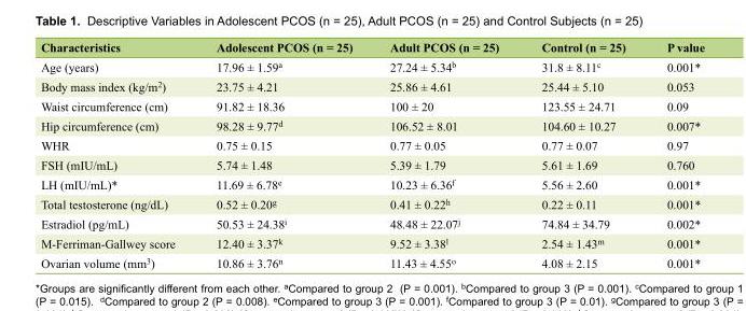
<table><thead><tr><td>Characteristics</td><td>Adolescent PCOS (n = 25)</td><td>Adult PCOS (n = 25)</td><td>Control (n = 25)</td><td>P value</td></tr></thead><tbody><tr><td>Age (years)</td><td>17.96 ± 1.59<sup>a</sup></td><td>27.24 ± 5.34<sup>b</sup></td><td>31.8 ± 8.11<sup>c</sup></td><td>0.001*</td></tr><tr><td>Body mass index (kg/m<sup>2</sup>)</td><td>23.75 ± 4.21</td><td>25.86 ± 4.61</td><td>25.44 ± 5.10</td><td>0.053</td></tr><tr><td>Waist circumference (cm)</td><td>91.82 ± 18.36</td><td>100 ± 20</td><td>123.55 ± 24.71</td><td>0.09</td></tr><tr><td>Hip circumference (cm)</td><td>98.28 ± 9.77<sup>d</sup></td><td>106.52 ± 8.01</td><td>104.60 ± 10.27</td><td>0.007*</td></tr><tr><td>WHR</td><td>0.75 ± 0.15</td><td>0.77 ± 0.05</td><td>0.77 ± 0.07</td><td>0.97</td></tr><tr><td>FSH (mIU/mL)</td><td>5.74 ± 1.48</td><td>5.39 ± 1.79</td><td>5.61 ± 1.69</td><td>0.760</td></tr><tr><td>LH (mIU/mL)*</td><td>11.69 ± 6.78<sup>e</sup></td><td>10.23 ± 6.36<sup>f</sup></td><td>5.56 ± 2.60</td><td>0.001*</td></tr><tr><td>Total testosterone (ng/dL)</td><td>0.52 ± 0.20<sup>g</sup></td><td>0.41 ± 0.22<sup>h</sup></td><td>0.22 ± 0.11</td><td>0.001*</td></tr><tr><td>Estradiol (pg/mL)</td><td>50.53 ± 24.38<sup>i</sup></td><td>48.48 ± 22.07<sup>j</sup></td><td>74.84 ± 34.79</td><td>0.002*</td></tr><tr><td>M-Ferriman-Gallwey score</td><td>12.40 ± 3.37<sup>k</sup></td><td>9.52 ± 3.38<sup>l</sup></td><td>2.54 ± 1.43<sup>m</sup></td><td>0.001*</td></tr><tr><td>Ovarian volume (mm<sup>3</sup>)</td><td>10.86 ± 3.76<sup>n</sup></td><td>11.43 ± 4.55<sup>o</sup></td><td>4.08 ± 2.15</td><td>0.001*</td></tr></tbody></table>